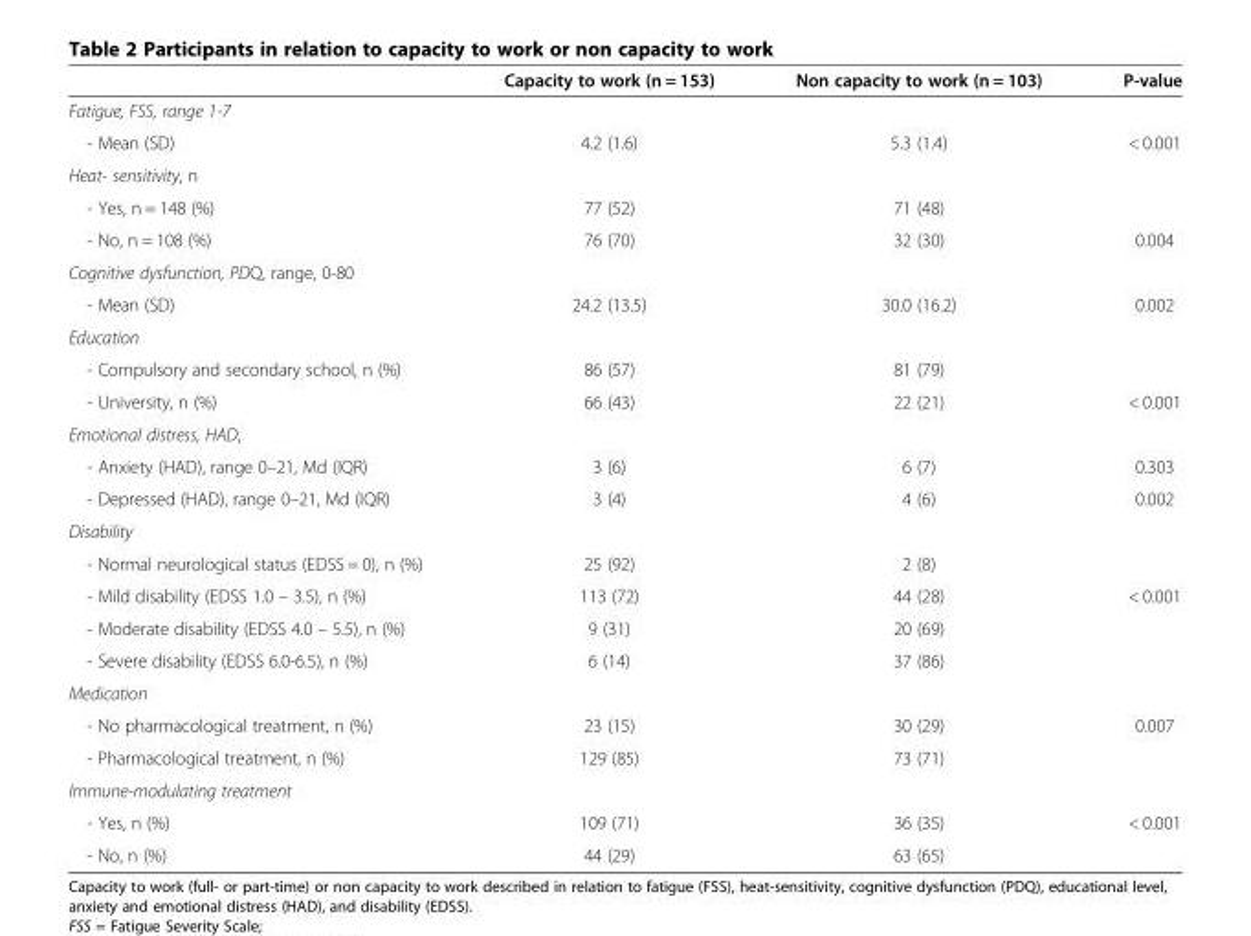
<table><thead><tr><td></td><td>Capacity to work (n = 153)</td><td>Non capacity to work (n = 103)</td><td>P-value</td></tr></thead><tbody><tr><td colspan="4">Fatigue, FSS, range 1-7</td></tr><tr><td>- Mean (SD)</td><td>4.2 (1.6)</td><td>5.3 (1.4)</td><td>&lt; 0.001</td></tr><tr><td colspan="4">Heat- sensitivity, n</td></tr><tr><td>- Yes, n = 148 (%)</td><td>77 (52)</td><td>71 (48)</td><td></td></tr><tr><td>- No, n = 108 (%)</td><td>76 (70)</td><td>32 (30)</td><td>0.004</td></tr><tr><td colspan="4">Cognitive dysfunction, PDQ, range, 0-80</td></tr><tr><td>- Mean (SD)</td><td>24.2 (13.5)</td><td>30.0 (16.2)</td><td>0.002</td></tr><tr><td colspan="4">Education</td></tr><tr><td>- Compulsory and secondary school, n (%)</td><td>86 (57)</td><td>81 (79)</td><td></td></tr><tr><td>- University, n (%)</td><td>66 (43)</td><td>22 (21)</td><td>&lt; 0.001</td></tr><tr><td colspan="4">Emotional distress, HAD,</td></tr><tr><td>- Anxiety (HAD), range 0–21, Md (IQR)</td><td>3 (6)</td><td>6 (7)</td><td>0.303</td></tr><tr><td>- Depressed (HAD), range 0–21, Md (IQR)</td><td>3 (4)</td><td>4 (6)</td><td>0.002</td></tr><tr><td colspan="4">Disability</td></tr><tr><td>- Normal neurological status (EDSS = 0), n (%)</td><td>25 (92)</td><td>2 (8)</td><td></td></tr><tr><td>- Mild disability (EDSS 1.0 – 3.5), n (%)</td><td>113 (72)</td><td>44 (28)</td><td>&lt; 0.001</td></tr><tr><td>- Moderate disability (EDSS 4.0 – 5.5), n (%)</td><td>9 (31)</td><td>20 (69)</td><td rowspan="2"></td></tr><tr><td>- Severe disability (EDSS 6.0-6.5), n (%)</td><td>6 (14)</td><td>37 (86)</td></tr><tr><td colspan="4">Medication</td></tr><tr><td>- No pharmacological treatment, n (%)</td><td>23 (15)</td><td>30 (29)</td><td rowspan="2">0.007</td></tr><tr><td>- Pharmacological treatment, n (%)</td><td>129 (85)</td><td>73 (71)</td></tr><tr><td colspan="4">Immune-modulating treatment</td></tr><tr><td>- Yes, n (%)</td><td>109 (71)</td><td>36 (35)</td><td>&lt; 0.001</td></tr><tr><td>- No, n (%)</td><td>44 (29)</td><td>63 (65)</td><td></td></tr></tbody></table>